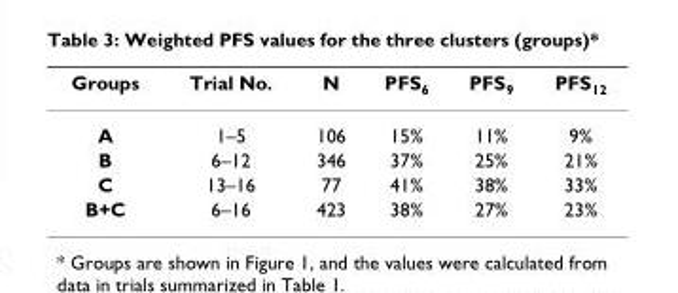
<table><thead><tr><td>Groups</td><td>Trial No.</td><td>N</td><td>PFS<sub>6</sub></td><td>PFS<sub>9</sub></td><td>PFS<sub>12</sub></td></tr></thead><tbody><tr><td>A</td><td>1–5</td><td>106</td><td>15%</td><td>11%</td><td>9%</td></tr><tr><td>B</td><td>6–12</td><td>346</td><td>37%</td><td>25%</td><td>21%</td></tr><tr><td>C</td><td>13–16</td><td>77</td><td>41%</td><td>38%</td><td>33%</td></tr><tr><td>B+C</td><td>6–16</td><td>423</td><td>38%</td><td>27%</td><td>23%</td></tr></tbody></table>